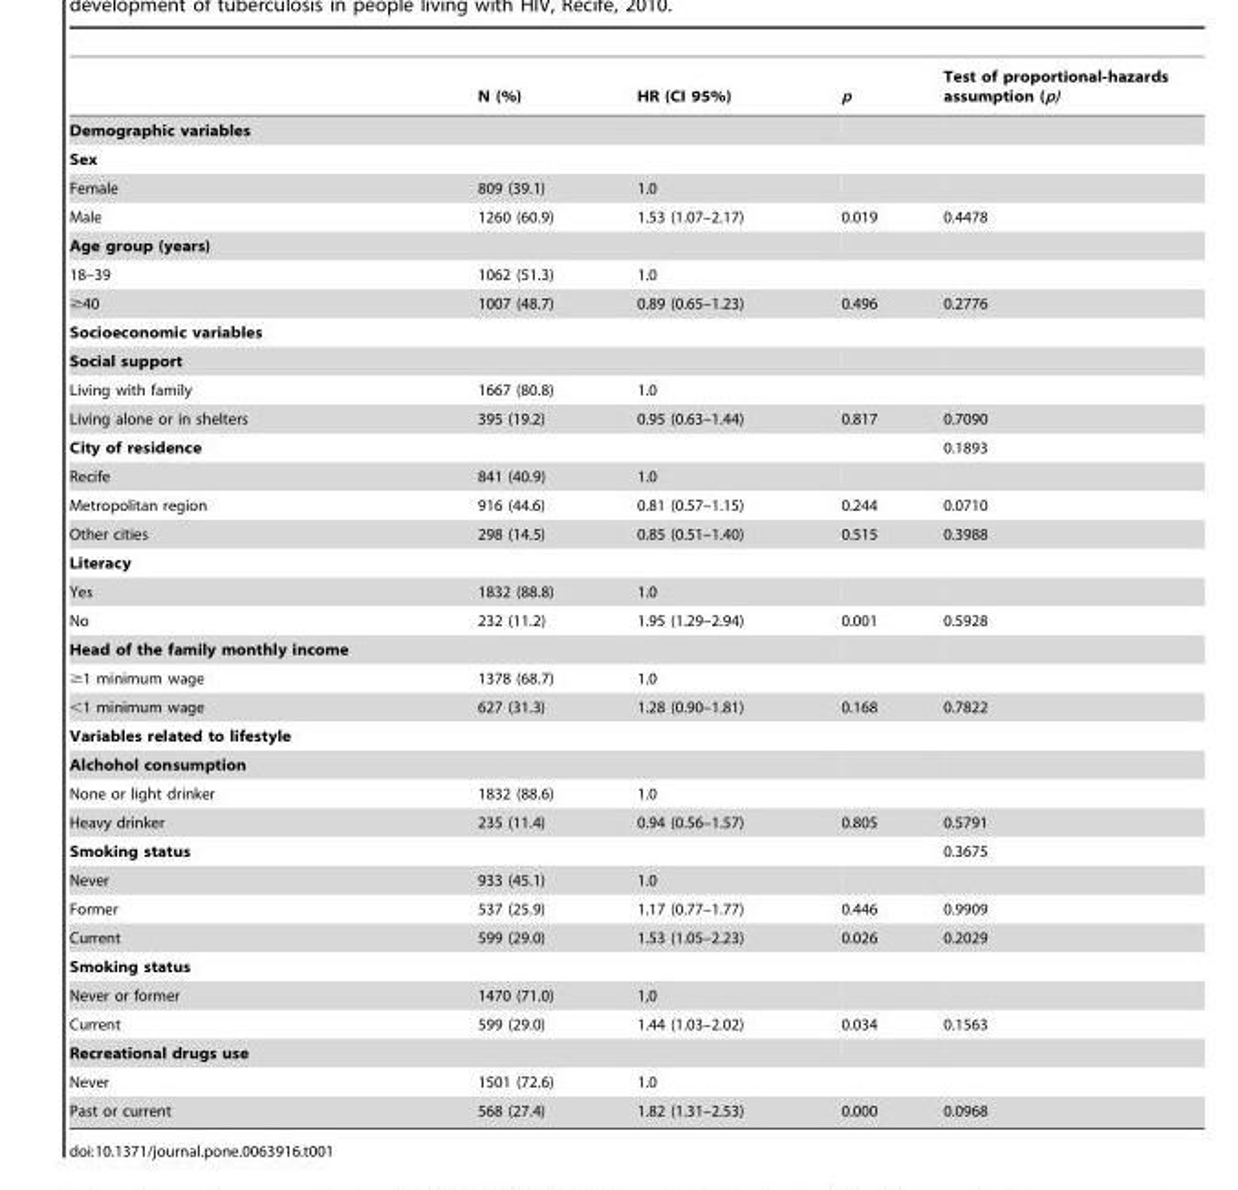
<table><thead><tr><td></td><td>N (%)</td><td>HR (CI 95%)</td><td>p</td><td>Test of proportional-hazards assumption (p)</td></tr></thead><tbody><tr><td colspan="5">Demographic variables</td></tr><tr><td colspan="5">Sex</td></tr><tr><td>Female</td><td>809 (39.1)</td><td>1.0</td><td></td><td></td></tr><tr><td>Male</td><td>1260 (60.9)</td><td>1.53 (1.07–2.17)</td><td>0.019</td><td>0.4478</td></tr><tr><td colspan="5">Age group (years)</td></tr><tr><td>18–39</td><td>1062 (51.3)</td><td>1.0</td><td></td><td></td></tr><tr><td>≥40</td><td>1007 (48.7)</td><td>0.89 (0.65–1.23)</td><td>0.496</td><td>0.2776</td></tr><tr><td colspan="5">Socioeconomic variables</td></tr><tr><td colspan="5">Social support</td></tr><tr><td>Living with family</td><td>1667 (80.8)</td><td>1.0</td><td></td><td></td></tr><tr><td>Living alone or in shelters</td><td>395 (19.2)</td><td>0.95 (0.63–1.44)</td><td>0.817</td><td>0.7090</td></tr><tr><td>City of residence</td><td></td><td></td><td></td><td>0.1893</td></tr><tr><td>Recife</td><td>841 (40.9)</td><td>1.0</td><td></td><td></td></tr><tr><td>Metropolitan region</td><td>916 (44.6)</td><td>0.81 (0.57–1.15)</td><td>0.244</td><td>0.0710</td></tr><tr><td>Other cities</td><td>298 (14.5)</td><td>0.85 (0.51–1.40)</td><td>0.515</td><td>0.3988</td></tr><tr><td colspan="5">Literacy</td></tr><tr><td>Yes</td><td>1832 (88.8)</td><td>1.0</td><td></td><td></td></tr><tr><td>No</td><td>232 (11.2)</td><td>1.95 (1.29–2.94)</td><td>0.001</td><td>0.5928</td></tr><tr><td colspan="5">Head of the family monthly income</td></tr><tr><td>≥1 minimum wage</td><td>1378 (68.7)</td><td>1.0</td><td></td><td></td></tr><tr><td>&lt;1 minimum wage</td><td>627 (31.3)</td><td>1.28 (0.90–1.81)</td><td>0.168</td><td>0.7822</td></tr><tr><td colspan="5">Variables related to lifestyle</td></tr><tr><td colspan="5">Alchohol consumption</td></tr><tr><td>None or light drinker</td><td>1832 (88.6)</td><td>1.0</td><td></td><td></td></tr><tr><td>Heavy drinker</td><td>235 (11.4)</td><td>0.94 (0.56–1.57)</td><td>0.805</td><td>0.5791</td></tr><tr><td>Smoking status</td><td></td><td></td><td></td><td>0.3675</td></tr><tr><td>Never</td><td>933 (45.1)</td><td>1.0</td><td></td><td></td></tr><tr><td>Former</td><td>537 (25.9)</td><td>1.17 (0.77–1.77)</td><td>0.446</td><td>0.9909</td></tr><tr><td>Current</td><td>599 (29.0)</td><td>1.53 (1.05–2.23)</td><td>0.026</td><td>0.2029</td></tr><tr><td colspan="5">Smoking status</td></tr><tr><td>Never or former</td><td>1470 (71.0)</td><td>1,0</td><td></td><td></td></tr><tr><td>Current</td><td>599 (29.0)</td><td>1.44 (1.03–2.02)</td><td>0.034</td><td>0.1563</td></tr><tr><td colspan="5">Recreational drugs use</td></tr><tr><td>Never</td><td>1501 (72.6)</td><td>1.0</td><td></td><td></td></tr><tr><td>Past or current</td><td>568 (27.4)</td><td>1.82 (1.31–2.53)</td><td>0.000</td><td>0.0968</td></tr></tbody></table>